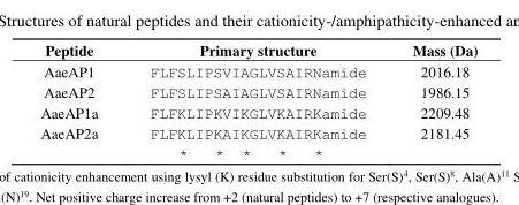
<table><thead><tr><td>Peptide</td><td>Primary structure</td><td>Mass (Da)</td></tr></thead><tbody><tr><td>AaeAP1</td><td>FLFSLIPSVIAGLVSAIRNamide</td><td>2016.18</td></tr><tr><td>AaeAP2</td><td>FLFSLIPSAIAGLVSAIRNamide</td><td>1986.15</td></tr><tr><td>AaeAP1a</td><td>FLFKLIPKVIKGLVKAIRKamide</td><td>2209.48</td></tr><tr><td rowspan="2">AaeAP2a</td><td>FLFKLIPKAIKGLVKAIRKamide</td><td>2181.45</td></tr><tr><td>* * * * *</td><td></td></tr></tbody></table>